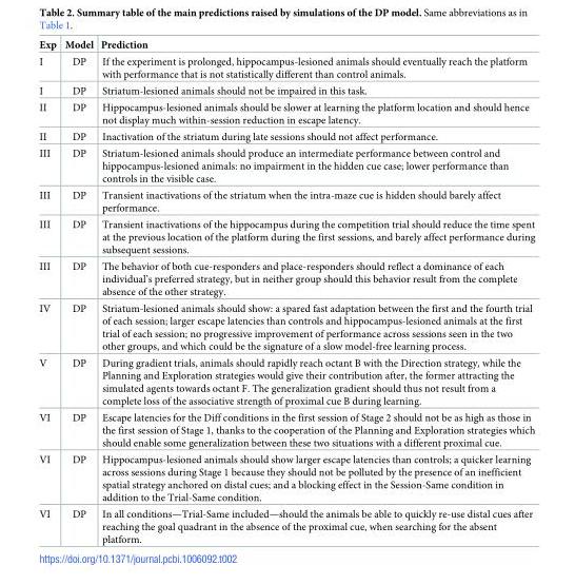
<table><thead><tr><td>Exp</td><td>Model</td><td>Prediction</td></tr></thead><tbody><tr><td>I</td><td>DP</td><td>If the experiment is prolonged, hippocampus-lesioned animals should eventually reach the platform with performance that is not statistically different than control animals.</td></tr><tr><td>I</td><td>DP</td><td>Striatum-lesioned animals should not be impaired in this task.</td></tr><tr><td>II</td><td>DP</td><td>Hippocampus-lesioned animals should be slower at learning the platform location and should hence not display much within-session reduction in escape latency.</td></tr><tr><td>II</td><td>DP</td><td>Inactivation of the striatum during late sessions should not affect performance.</td></tr><tr><td>III</td><td>DP</td><td>Striatum-lesioned animals should produce an intermediate performance between control and hippocampus-lesioned animals: no impairment in the hidden cue case; lower performance than controls in the visible case.</td></tr><tr><td>III</td><td>DP</td><td>Transient inactivations of the striatum when the intra-maze cue is hidden should barely affect performance.</td></tr><tr><td>III</td><td>DP</td><td>Transient inactivations of the hippocampus during the competition trial should reduce the time spent at the previous location of the platform during the first sessions, and barely affect performance during subsequent sessions.</td></tr><tr><td>III</td><td>DP</td><td>The behavior of both cue-responders and place-responders should reflect a dominance of each individual’s preferred strategy, but in neither group should this behavior result from the complete absence of the other strategy.</td></tr><tr><td>IV</td><td>DP</td><td>Striatum-lesioned animals should show: a spared fast adaptation between the first and the fourth trial of each session; larger escape latencies than controls and hippocampus-lesioned animals at the first trial of each session; no progressive improvement of performance across sessions seen in the two other groups, and which could be the signature of a slow model-free learning process.</td></tr><tr><td>V</td><td>DP</td><td>During gradient trials, animals should rapidly reach octant B with the Direction strategy, while the Planning and Exploration strategies would give their contribution after, the former attracting the simulated agents towards octant F. The generalization gradient should thus not result from a complete loss of the associative strength of proximal cue B during learning.</td></tr><tr><td>VI</td><td>DP</td><td>Escape latencies for the Diff conditions in the first session of Stage 2 should not be as high as those in the first session of Stage 1, thanks to the cooperation of the Planning and Exploration strategies which should enable some generalization between these two situations with a different proximal cue.</td></tr><tr><td>VI</td><td>DP</td><td>Hippocampus-lesioned animals should show larger escape latencies than controls; a quicker learning across sessions during Stage 1 because they should not be polluted by the presence of an inefficient spatial strategy anchored on distal cues; and a blocking effect in the Session-Same condition in addition to the Trial-Same condition.</td></tr><tr><td>VI</td><td>DP</td><td>In all conditions—Trial-Same included—should the animals be able to quickly re-use distal cues after reaching the goal quadrant in the absence of the proximal cue, when searching for the absent platform.</td></tr></tbody></table>